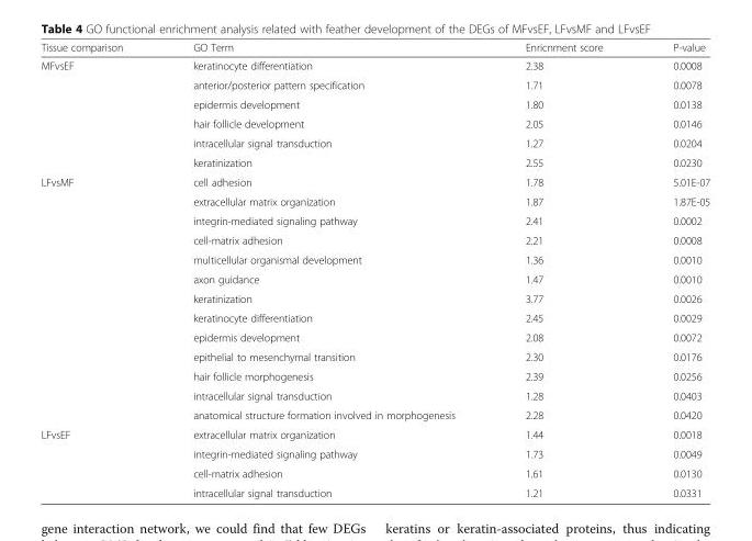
<table><thead><tr><td>Tissue comparison</td><td>GO Term</td><td>Enricnment score</td><td>P-value</td></tr></thead><tbody><tr><td rowspan="6">MFvsEF</td><td>keratinocyte differentiation</td><td>2.38</td><td>0.0008</td></tr><tr><td>anterior/posterior pattern specification</td><td>1.71</td><td>0.0078</td></tr><tr><td>epidermis development</td><td>1.80</td><td>0.0138</td></tr><tr><td>hair follicle development</td><td>2.05</td><td>0.0146</td></tr><tr><td>intracellular signal transduction</td><td>1.27</td><td>0.0204</td></tr><tr><td>keratinization</td><td>2.55</td><td>0.0230</td></tr><tr><td rowspan="13">LFvsMF</td><td>cell adhesion</td><td>1.78</td><td>5.01E-07</td></tr><tr><td>extracellular matrix organization</td><td>1.87</td><td>1.87E-05</td></tr><tr><td>integrin-mediated signaling pathway</td><td>2.41</td><td>0.0002</td></tr><tr><td>cell-matrix adhesion</td><td>2.21</td><td>0.0008</td></tr><tr><td>multicellular organismal development</td><td>1.36</td><td>0.0010</td></tr><tr><td>axon guidance</td><td>1.47</td><td>0.0010</td></tr><tr><td>keratinization</td><td>3.77</td><td>0.0026</td></tr><tr><td>keratinocyte differentiation</td><td>2.45</td><td>0.0029</td></tr><tr><td>epidermis development</td><td>2.08</td><td>0.0072</td></tr><tr><td>epithelial to mesenchymal transition</td><td>2.30</td><td>0.0176</td></tr><tr><td>hair follicle morphogenesis</td><td>2.39</td><td>0.0256</td></tr><tr><td>intracellular signal transduction</td><td>1.28</td><td>0.0403</td></tr><tr><td>anatomical structure formation involved in morphogenesis</td><td>2.28</td><td>0.0420</td></tr><tr><td rowspan="4">LFvsEF</td><td>extracellular matrix organization</td><td>1.44</td><td>0.0018</td></tr><tr><td>integrin-mediated signaling pathway</td><td>1.73</td><td>0.0049</td></tr><tr><td>cell-matrix adhesion</td><td>1.61</td><td>0.0130</td></tr><tr><td>intracellular signal transduction</td><td>1.21</td><td>0.0331</td></tr></tbody></table>